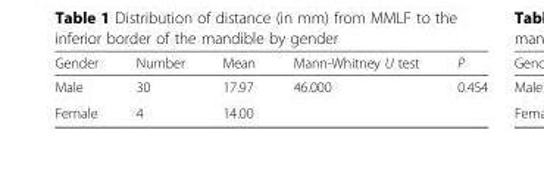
<table><thead><tr><td>Gender</td><td>Number</td><td>Mean</td><td>Mann-Whitney U test</td><td>P</td></tr></thead><tbody><tr><td>Male</td><td>30</td><td>17.97</td><td>46.000</td><td>0.454</td></tr><tr><td>Female</td><td>4</td><td>14.00</td><td></td><td></td></tr></tbody></table>